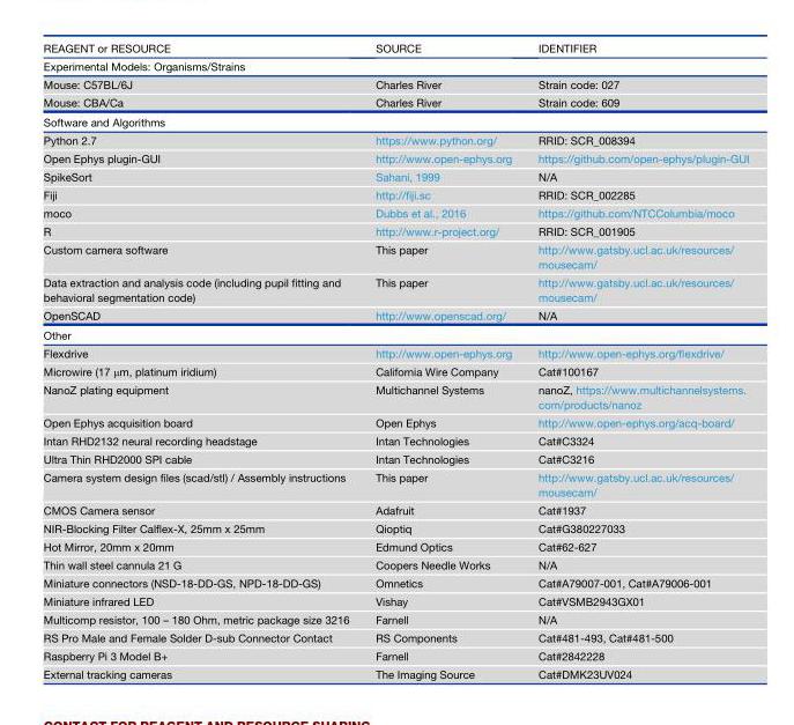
<table><thead><tr><td>REAGENT or RESOURCE</td><td>SOURCE</td><td>IDENTIFIER</td></tr></thead><tbody><tr><td colspan="3">Experimental Models: Organisms/Strains</td></tr><tr><td>Mouse: C57BL/6J</td><td>Charles River</td><td>Strain code: 027</td></tr><tr><td>Mouse: CBA/Ca</td><td>Charles River</td><td>Strain code: 609</td></tr><tr><td colspan="3">Software and Algorithms</td></tr><tr><td>Python 2.7</td><td>https://www.python.org/</td><td>RRID: SCR_008394</td></tr><tr><td>Open Ephys plugin-GUI</td><td>http://www.open-ephys.org</td><td>https://github.com/open-ephys/plugin-GUI</td></tr><tr><td>SpikeSort</td><td>Sahani, 1999</td><td>N/A</td></tr><tr><td>Fiji</td><td>http://fiji.sc</td><td>RRID: SCR_002285</td></tr><tr><td>moco</td><td>Dubbs et al., 2016</td><td>https://github.com/NTCColumbia/moco</td></tr><tr><td>R</td><td>http://www.r-project.org/</td><td>RRID: SCR_001905</td></tr><tr><td>Custom camera software</td><td>This paper</td><td>http://www.gatsby.ucl.ac.uk/resources/ mousecam/</td></tr><tr><td>Data extraction and analysis code (including pupil fitting and behavioral segmentation code)</td><td>This paper</td><td>http://www.gatsby.ucl.ac.uk/resources/ mousecam/</td></tr><tr><td>OpenSCAD</td><td>http://www.openscad.org/</td><td>N/A</td></tr><tr><td colspan="3">Other</td></tr><tr><td>Flexdrive</td><td>http://www.open-ephys.org</td><td>http://www.open-ephys.org/flexdrive/</td></tr><tr><td>Microwire (17 μm, platinum iridium)</td><td>California Wire Company</td><td>Cat#100167</td></tr><tr><td>NanoZ plating equipment</td><td>Multichannel Systems</td><td>nanoZ, https://www.multichannelsystems. com/products/nanoz</td></tr><tr><td>Open Ephys acquisition board</td><td>Open Ephys</td><td>http://www.open-ephys.org/acq-board/</td></tr><tr><td>Intan RHD2132 neural recording headstage</td><td>Intan Technologies</td><td>Cat#C3324</td></tr><tr><td>Ultra Thin RHD2000 SPI cable</td><td>Intan Technologies</td><td>Cat#C3216</td></tr><tr><td>Camera system design files (scad/stl) / Assembly instructions</td><td>This paper</td><td>http://www.gatsby.ucl.ac.uk/resources/ mousecam/</td></tr><tr><td>CMOS Camera sensor</td><td>Adafruit</td><td>Cat#1937</td></tr><tr><td>NIR-Blocking Filter Calflex-X, 25mm x 25mm</td><td>Qioptiq</td><td>Cat#G380227033</td></tr><tr><td>Hot Mirror, 20mm x 20mm</td><td>Edmund Optics</td><td>Cat#62-627</td></tr><tr><td>Thin wall steel cannula 21 G</td><td>Coopers Needle Works</td><td>N/A</td></tr><tr><td>Miniature connectors (NSD-18-DD-GS, NPD-18-DD-GS)</td><td>Omnetics</td><td>Cat#A79007-001, Cat#A79006-001</td></tr><tr><td>Miniature infrared LED</td><td>Vishay</td><td>Cat#VSMB2943GX01</td></tr><tr><td>Multicomp resistor, 100 – 180 Ohm, metric package size 3216</td><td>Farnell</td><td>N/A</td></tr><tr><td>RS Pro Male and Female Solder D-sub Connector Contact</td><td>RS Components</td><td>Cat#481-493, Cat#481-500</td></tr><tr><td>Raspberry Pi 3 Model B+</td><td>Farnell</td><td>Cat#2842228</td></tr><tr><td>External tracking cameras</td><td>The Imaging Source</td><td>Cat#DMK23UV024</td></tr></tbody></table>